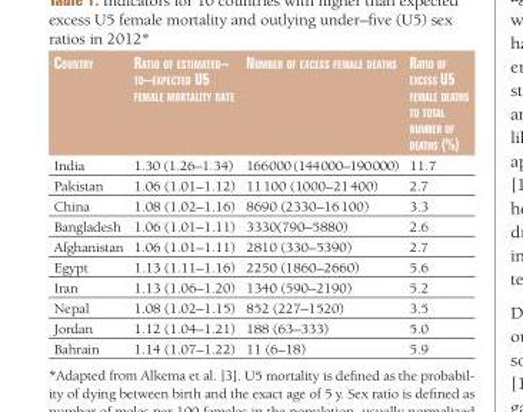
<table><thead><tr><td>Country</td><td>ratio of estimated– to–expeCted u5 female mortality rate</td><td>number of exCess female deaths</td><td>ratio of exCess u5 female deaths to total number of deaths (%)</td></tr></thead><tbody><tr><td>India</td><td>1.30 (1.26–1.34)</td><td>166 000 (144 000–190 000)</td><td>11.7</td></tr><tr><td>Pakistan</td><td>1.06 (1.01–1.12)</td><td>11 100 (1000–21 400)</td><td>2.7</td></tr><tr><td>China</td><td>1.08 (1.02–1.16)</td><td>8690 (2330–16 100)</td><td>3.3</td></tr><tr><td>Bangladesh</td><td>1.06 (1.01–1.11)</td><td>3330(790–5880)</td><td>2.6</td></tr><tr><td>Afghanistan</td><td>1.06 (1.01–1.11)</td><td>2810 (330–5390)</td><td>2.7</td></tr><tr><td>Egypt</td><td>1.13 (1.11–1.16)</td><td>2250 (1860–2660)</td><td>5.6</td></tr><tr><td>Iran</td><td>1.13 (1.06–1.20)</td><td>1340 (590–2190)</td><td>5.2</td></tr><tr><td>Nepal</td><td>1.08 (1.02–1.15)</td><td>852 (227–1520)</td><td>3.5</td></tr><tr><td>Jordan</td><td>1.12 (1.04–1.21)</td><td>188 (63–333)</td><td>5.0</td></tr><tr><td>Bahrain</td><td>1.14 (1.07–1.22)</td><td>11 (6–18)</td><td>5.9</td></tr></tbody></table>